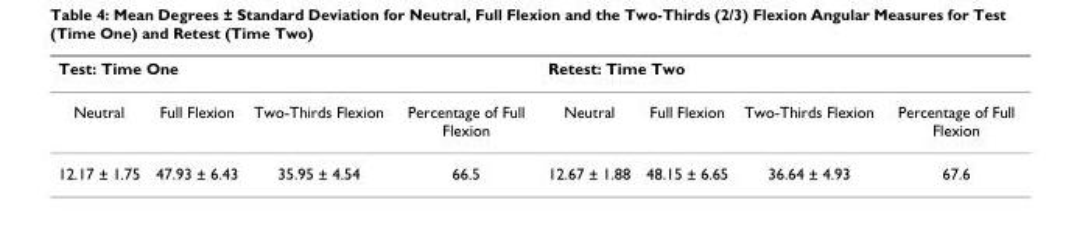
<table><thead><tr><td colspan="4">Test: Time One</td><td colspan="4">Retest: Time Two</td></tr><tr><td>Neutral</td><td>Full Flexion</td><td>Two-Thirds Flexion</td><td>Percentage of Full Flexion</td><td>Neutral</td><td>Full Flexion</td><td>Two-Thirds Flexion</td><td>Percentage of Full Flexion</td></tr></thead><tbody><tr><td>12.17 ± 1.75</td><td>47.93 ± 6.43</td><td>35.95 ± 4.54</td><td>66.5</td><td>12.67 ± 1.88</td><td>48.15 ± 6.65</td><td>36.64 ± 4.93</td><td>67.6</td></tr></tbody></table>